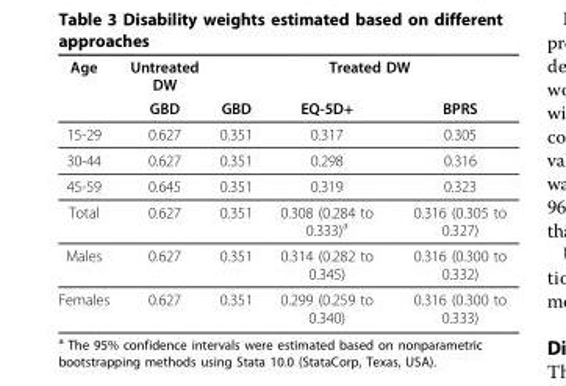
<table><thead><tr><td rowspan="2">Age</td><td rowspan="2">Untreated DW GBD</td><td colspan="3">Treated DW</td></tr><tr><td>GBD</td><td>EQ-5D+</td><td>BPRS</td></tr></thead><tbody><tr><td>15-29</td><td>0.627</td><td>0.351</td><td>0.317</td><td>0.305</td></tr><tr><td>30-44</td><td>0.627</td><td>0.351</td><td>0.298</td><td>0.316</td></tr><tr><td>45-59</td><td>0.645</td><td>0.351</td><td>0.319</td><td>0.323</td></tr><tr><td>Total</td><td>0.627</td><td>0.351</td><td>0.308 (0.284 to 0.333)<sup>a</sup></td><td>0.316 (0.305 to 0.327)</td></tr><tr><td>Males</td><td>0.627</td><td>0.351</td><td>0.314 (0.282 to 0.345)</td><td>0.316 (0.300 to 0.332)</td></tr><tr><td>Females</td><td>0.627</td><td>0.351</td><td>0.299 (0.259 to 0.340)</td><td>0.316 (0.300 to 0.333)</td></tr></tbody></table>